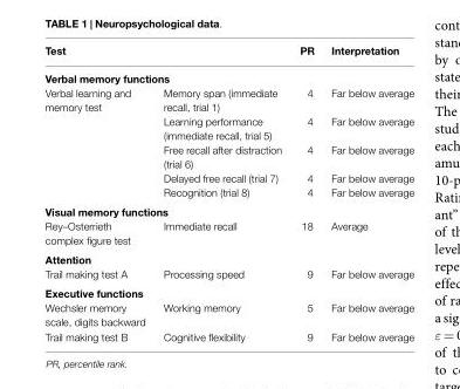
<table><thead><tr><td>Test</td><td></td><td>PR</td><td>Interpretation</td></tr></thead><tbody><tr><td colspan="4">Verbal memory functions</td></tr><tr><td rowspan="5">Verbal learning and memory test</td><td>Memory span (immediate recall, trial 1)</td><td>4</td><td>Far below average</td></tr><tr><td>Learning performance (immediate recall, trial 5)</td><td>4</td><td>Far below average</td></tr><tr><td>Free recall after distraction (trial 6)</td><td>4</td><td>Far below average</td></tr><tr><td>Delayed free recall (trial 7)</td><td>4</td><td>Far below average</td></tr><tr><td>Recognition (trial 8)</td><td>4</td><td>Far below average</td></tr><tr><td colspan="4">Visual memory functions</td></tr><tr><td>Rey–Osterrieth complex figure test</td><td>Immediate recall</td><td>18</td><td>Average</td></tr><tr><td colspan="4">Attention</td></tr><tr><td>Trail making test A</td><td>Processing speed</td><td>9</td><td>Far below average</td></tr><tr><td colspan="4">Executive functions</td></tr><tr><td>Wechsler memory scale, digits backward</td><td>Working memory</td><td>5</td><td>Far below average</td></tr><tr><td>Trail making test B</td><td>Cognitive flexibility</td><td>9</td><td>Far below average</td></tr></tbody></table>